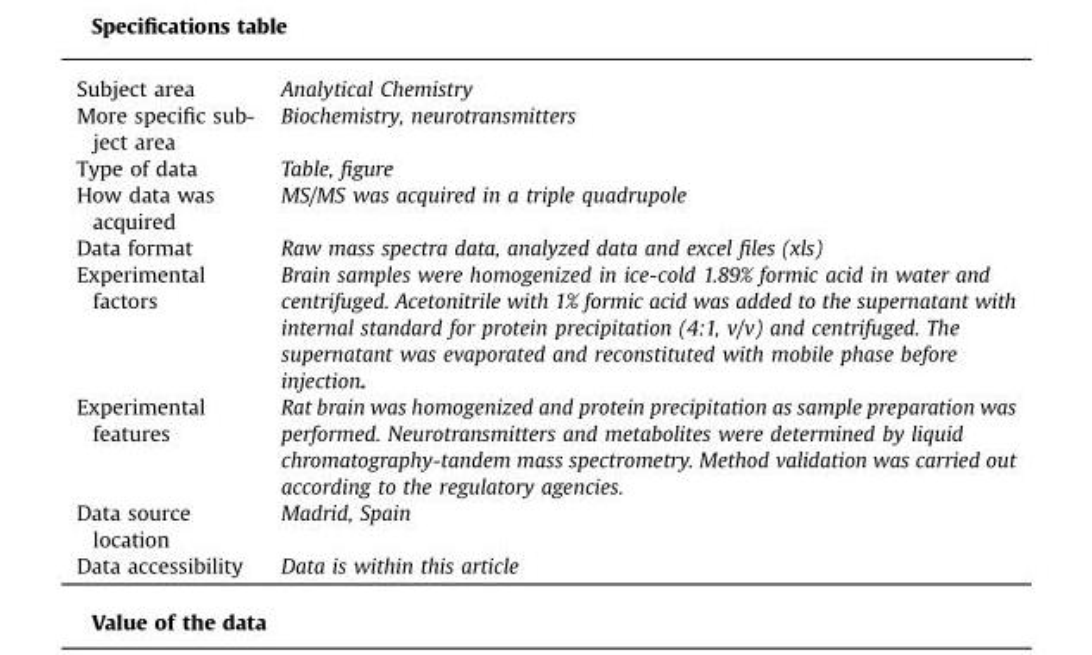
<table><tbody><tr><td>Subject area</td><td>Analytical Chemistry</td></tr><tr><td>More specific sub- ject area</td><td>Biochemistry, neurotransmitters</td></tr><tr><td>Type of data</td><td>Table, figure</td></tr><tr><td>How data was acquired</td><td>MS/MS was acquired in a triple quadrupole</td></tr><tr><td>Data format</td><td>Raw mass spectra data, analyzed data and excel files (xls)</td></tr><tr><td>Experimental factors</td><td>Brain samples were homogenized in ice-cold 1.89% formic acid in water and centrifuged. Acetonitrile with 1% formic acid was added to the supernatant with internal standard for protein precipitation (4:1, v/v) and centrifuged. The supernatant was evaporated and reconstituted with mobile phase before injection.</td></tr><tr><td>Experimental features</td><td>Rat brain was homogenized and protein precipitation as sample preparation was performed. Neurotransmitters and metabolites were determined by liquid chromatography-tandem mass spectrometry. Method validation was carried out according to the regulatory agencies.</td></tr><tr><td>Data source location</td><td>Madrid, Spain</td></tr><tr><td>Data accessibility</td><td>Data is within this article</td></tr></tbody></table>